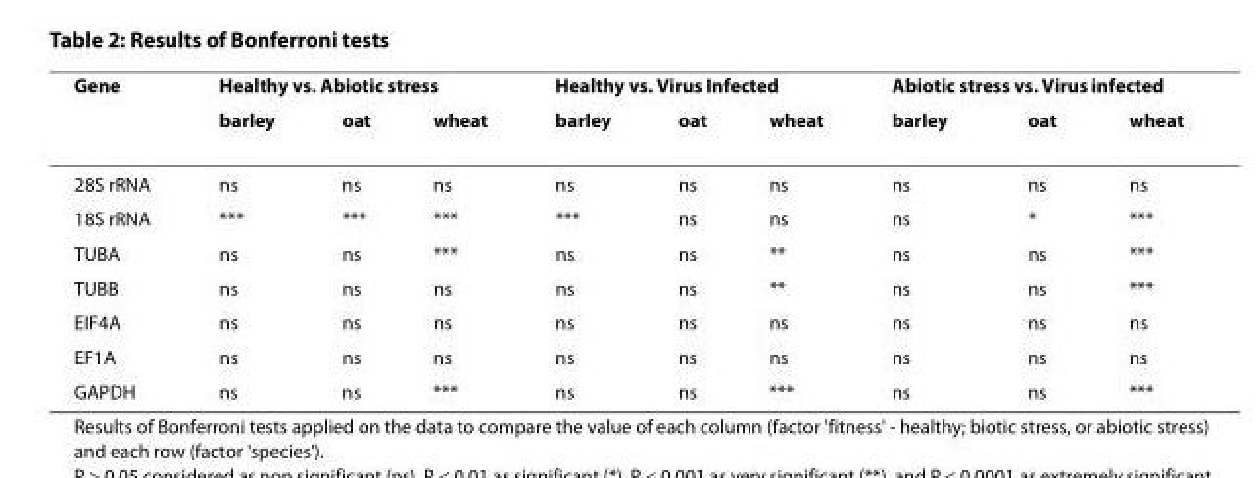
<table><thead><tr><td rowspan="2">Gene</td><td colspan="3">Healthy vs. Abiotic stress</td><td colspan="3">Healthy vs. Virus Infected</td><td colspan="3">Abiotic stress vs. Virus infected</td></tr><tr><td>barley</td><td>oat</td><td>wheat</td><td>barley</td><td>oat</td><td>wheat</td><td>barley</td><td>oat</td><td>wheat</td></tr></thead><tbody><tr><td>28S rRNA</td><td>ns</td><td>ns</td><td>ns</td><td>ns</td><td>ns</td><td>ns</td><td>ns</td><td>ns</td><td>ns</td></tr><tr><td>18S rRNA</td><td>***</td><td>***</td><td>***</td><td>***</td><td>ns</td><td>ns</td><td>ns</td><td>*</td><td>***</td></tr><tr><td>TUBA</td><td>ns</td><td>ns</td><td>***</td><td>ns</td><td>ns</td><td>**</td><td>ns</td><td>ns</td><td>***</td></tr><tr><td>TUBB</td><td>ns</td><td>ns</td><td>ns</td><td>ns</td><td>ns</td><td>**</td><td>ns</td><td>ns</td><td>***</td></tr><tr><td>EIF4A</td><td>ns</td><td>ns</td><td>ns</td><td>ns</td><td>ns</td><td>ns</td><td>ns</td><td>ns</td><td>ns</td></tr><tr><td>EF1A</td><td>ns</td><td>ns</td><td>ns</td><td>ns</td><td>ns</td><td>ns</td><td>ns</td><td>ns</td><td>ns</td></tr><tr><td>GAPDH</td><td>ns</td><td>ns</td><td>***</td><td>ns</td><td>ns</td><td>***</td><td>ns</td><td>ns</td><td>***</td></tr></tbody></table>